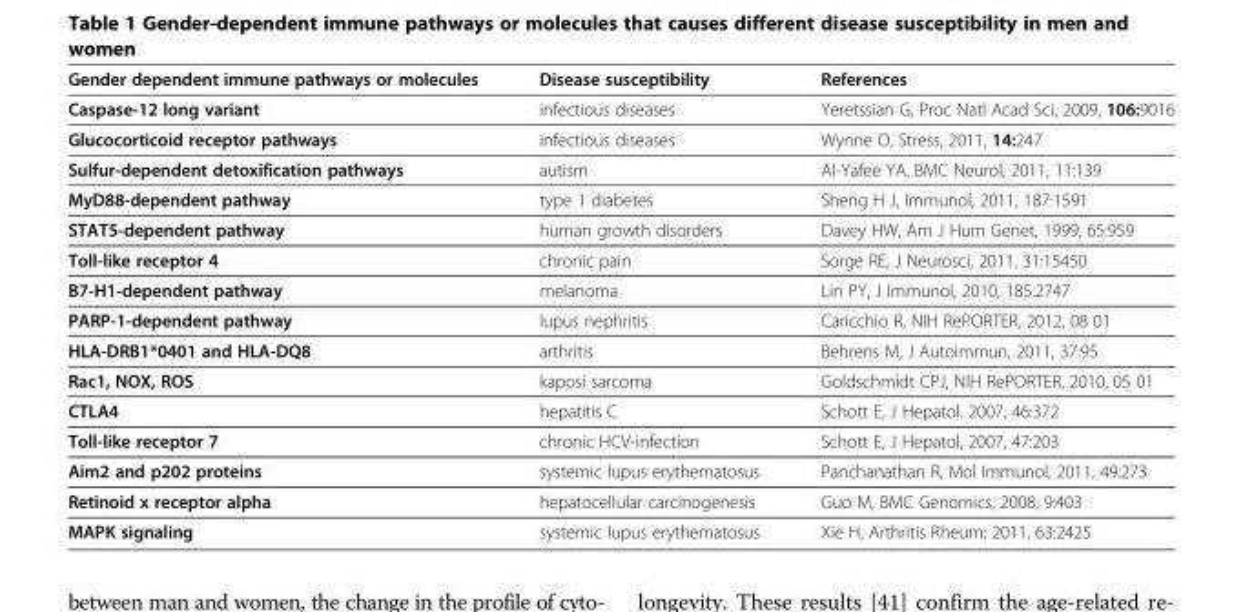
<table><thead><tr><td>Gender dependent immune pathways or molecules</td><td>Disease susceptibility</td><td>References</td></tr></thead><tbody><tr><td>Caspase-12 long variant</td><td>infectious diseases</td><td>Yeretssian G, Proc Natl Acad Sci, 2009, 106:9016</td></tr><tr><td>Glucocorticoid receptor pathways</td><td>infectious diseases</td><td>Wynne O, Stress, 2011, 14:247</td></tr><tr><td>Sulfur-dependent detoxification pathways</td><td>autism</td><td>Al-Yafee YA, BMC Neurol, 2011, 11:139</td></tr><tr><td>MyD88-dependent pathway</td><td>type 1 diabetes</td><td>Sheng H J, Immunol, 2011, 187:1591</td></tr><tr><td>STAT5-dependent pathway</td><td>human growth disorders</td><td>Davey HW, Am J Hum Genet, 1999, 65:959</td></tr><tr><td>Toll-like receptor 4</td><td>chronic pain</td><td>Sorge RE, J Neurosci, 2011, 31:15450</td></tr><tr><td>B7-H1-dependent pathway</td><td>melanoma</td><td>Lin PY, J Immunol, 2010, 185:2747</td></tr><tr><td>PARP-1-dependent pathway</td><td>lupus nephritis</td><td>Caricchio R, NIH RePORTER, 2012, 08 01</td></tr><tr><td>HLA-DRB1*0401 and HLA-DQ8</td><td>arthritis</td><td>Behrens M, J Autoimmun, 2011, 37:95</td></tr><tr><td>Rac1, NOX, ROS</td><td>kaposi sarcoma</td><td>Goldschmidt CPJ, NIH RePORTER, 2010, 05 01</td></tr><tr><td>CTLA4</td><td>hepatitis C</td><td>Schott E, J Hepatol. 2007, 46:372</td></tr><tr><td>Toll-like receptor 7</td><td>chronic HCV-infection</td><td>Schott E, J Hepatol, 2007, 47:203</td></tr><tr><td>Aim2 and p202 proteins</td><td>systemic lupus erythematosus</td><td>Panchanathan R, Mol Immunol, 2011, 49:273</td></tr><tr><td>Retinoid x receptor alpha</td><td>hepatocellular carcinogenesis</td><td>Guo M, BMC Genomics, 2008, 9:403</td></tr><tr><td>MAPK signaling</td><td>systemic lupus erythematosus</td><td>Xie H, Arthritis Rheum; 2011, 63:2425</td></tr></tbody></table>